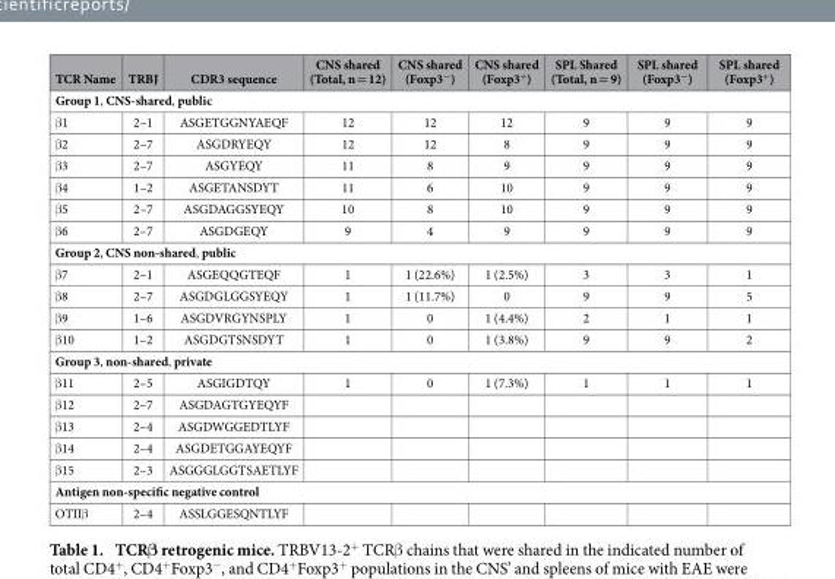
<table><thead><tr><td>TCR Name</td><td>TRBJ</td><td>CDR3 sequence</td><td>CNS shared (Total, n = 12)</td><td>CNS shared (Foxp3<sup>−</sup>)</td><td>CNS shared (Foxp3<sup>+</sup>)</td><td>SPL Shared (Total, n = 9)</td><td>SPL shared (Foxp3<sup>−</sup>)</td><td>SPL shared (Foxp3<sup>+</sup>)</td></tr></thead><tbody><tr><td colspan="9">Group 1, CNS-shared, public</td></tr><tr><td>β 1</td><td>2–1</td><td>ASGETGGNYAEQF</td><td>12</td><td>12</td><td>12</td><td>9</td><td>9</td><td>9</td></tr><tr><td>β 2</td><td>2–7</td><td>ASGDRYEQY</td><td>12</td><td>12</td><td>8</td><td>9</td><td>9</td><td>9</td></tr><tr><td>β 3</td><td>2–7</td><td>ASGYEQY</td><td>11</td><td>8</td><td>9</td><td>9</td><td>9</td><td>9</td></tr><tr><td>β 4</td><td>1–2</td><td>ASGETANSDYT</td><td>11</td><td>6</td><td>10</td><td>9</td><td>9</td><td>9</td></tr><tr><td>β 5</td><td>2–7</td><td>ASGDAGGSYEQY</td><td>10</td><td>8</td><td>10</td><td>9</td><td>9</td><td>9</td></tr><tr><td>β 6</td><td>2–7</td><td>ASGDGEQY</td><td>9</td><td>4</td><td>9</td><td>9</td><td>9</td><td>9</td></tr><tr><td colspan="9">Group 2, CNS non-shared, public</td></tr><tr><td>β 7</td><td>2–1</td><td>ASGEQQGTEQF</td><td>1</td><td>1 (22.6%)</td><td>1 (2.5%)</td><td>3</td><td>3</td><td>1</td></tr><tr><td>β 8</td><td>2–7</td><td>ASGDGLGGSYEQY</td><td>1</td><td>1 (11.7%)</td><td>0</td><td>9</td><td>9</td><td>5</td></tr><tr><td>β 9</td><td>1–6</td><td>ASGDVRGYNSPLY</td><td>1</td><td>0</td><td>1 (4.4%)</td><td>2</td><td>1</td><td>1</td></tr><tr><td>β 10</td><td>1–2</td><td>ASGDGTSNSDYT</td><td>1</td><td>0</td><td>1 (3.8%)</td><td>9</td><td>9</td><td>2</td></tr><tr><td colspan="9">Group 3, non-shared, private</td></tr><tr><td>β 11</td><td>2–5</td><td>ASGIGDTQY</td><td>1</td><td>0</td><td>1 (7.3%)</td><td>1</td><td>1</td><td>1</td></tr><tr><td>β 12</td><td>2–7</td><td>ASGDAGTGYEQYF</td><td></td><td></td><td></td><td></td><td></td><td></td></tr><tr><td>β 13</td><td>2–4</td><td>ASGDWGGEDTLYF</td><td></td><td></td><td></td><td></td><td></td><td></td></tr><tr><td>β 14</td><td>2–4</td><td>ASGDETGGAYEQYF</td><td></td><td></td><td></td><td></td><td></td><td></td></tr><tr><td>β 15</td><td>2–3</td><td>ASGGGLGGTSAETLYF</td><td></td><td></td><td></td><td></td><td></td><td></td></tr><tr><td colspan="9">Antigen non-specific negative control</td></tr><tr><td>OTIIβ</td><td>2–4</td><td>ASSLGGESQNTLYF</td><td></td><td></td><td></td><td></td><td></td><td></td></tr></tbody></table>